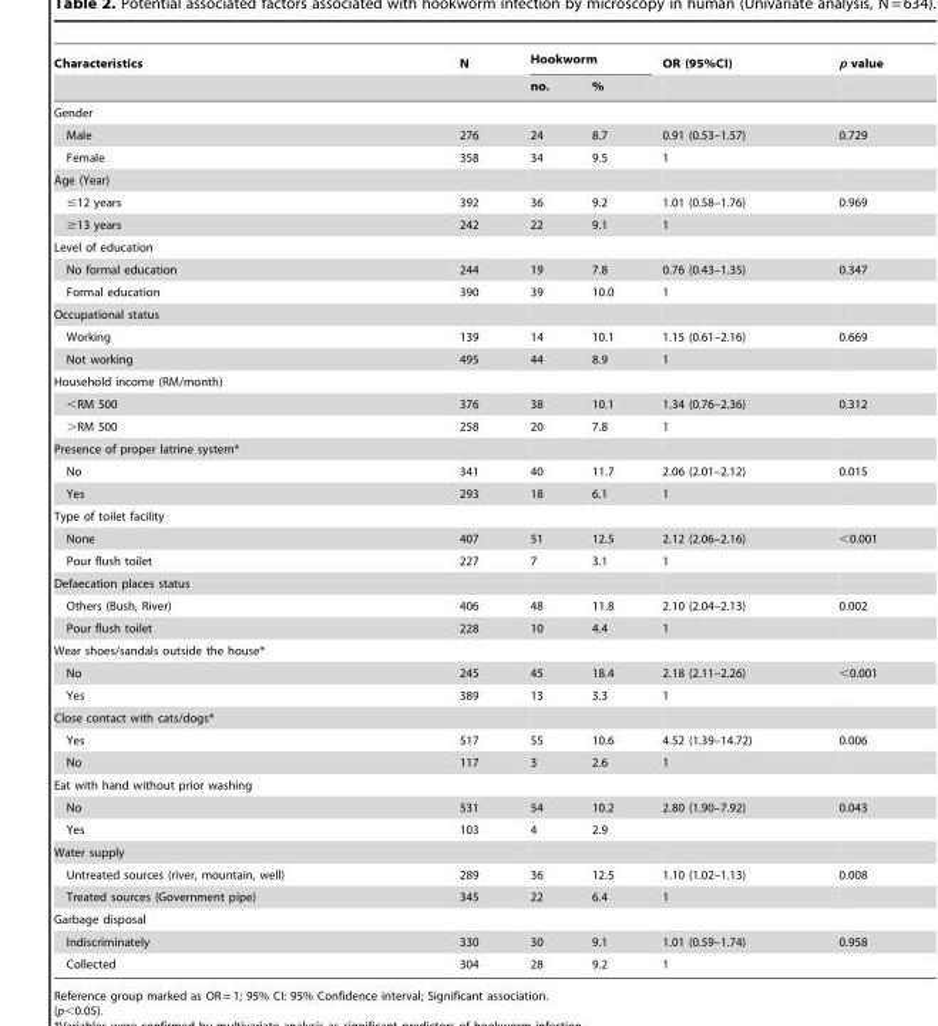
<table><thead><tr><td rowspan="2">Characteristics</td><td rowspan="2">N</td><td colspan="2">Hookworm</td><td rowspan="2">OR (95%CI)</td><td rowspan="2">p value</td></tr><tr><td>no.</td><td>%</td></tr></thead><tbody><tr><td colspan="6">Gender</td></tr><tr><td>Male</td><td>276</td><td>24</td><td>8.7</td><td>0.91 (0.53–1.57)</td><td>0.729</td></tr><tr><td>Female</td><td>358</td><td>34</td><td>9.5</td><td>1</td><td></td></tr><tr><td colspan="6">Age (Year)</td></tr><tr><td>≤12 years</td><td>392</td><td>36</td><td>9.2</td><td>1.01 (0.58–1.76)</td><td>0.969</td></tr><tr><td>≥13 years</td><td>242</td><td>22</td><td>9.1</td><td>1</td><td></td></tr><tr><td colspan="6">Level of education</td></tr><tr><td>No formal education</td><td>244</td><td>19</td><td>7.8</td><td>0.76 (0.43–1.35)</td><td>0.347</td></tr><tr><td>Formal education</td><td>390</td><td>39</td><td>10.0</td><td>1</td><td></td></tr><tr><td colspan="6">Occupational status</td></tr><tr><td>Working</td><td>139</td><td>14</td><td>10.1</td><td>1.15 (0.61–2.16)</td><td>0.669</td></tr><tr><td>Not working</td><td>495</td><td>44</td><td>8.9</td><td>1</td><td></td></tr><tr><td colspan="6">Household income (RM/month)</td></tr><tr><td>&lt;RM 500</td><td>376</td><td>38</td><td>10.1</td><td>1.34 (0.76–2.36)</td><td>0.312</td></tr><tr><td>&gt;RM 500</td><td>258</td><td>20</td><td>7.8</td><td>1</td><td></td></tr><tr><td colspan="6">Presence of proper latrine system*</td></tr><tr><td>No</td><td>341</td><td>40</td><td>11.7</td><td>2.06 (2.01–2.12)</td><td>0.015</td></tr><tr><td>Yes</td><td>293</td><td>18</td><td>6.1</td><td>1</td><td></td></tr><tr><td colspan="6">Type of toilet facility</td></tr><tr><td>None</td><td>407</td><td>51</td><td>12.5</td><td>2.12 (2.06–2.16)</td><td>&lt;0.001</td></tr><tr><td>Pour flush toilet</td><td>227</td><td>7</td><td>3.1</td><td>1</td><td></td></tr><tr><td colspan="6">Defaecation places status</td></tr><tr><td>Others (Bush, River)</td><td>406</td><td>48</td><td>11.8</td><td>2.10 (2.04–2.13)</td><td>0.002</td></tr><tr><td>Pour flush toilet</td><td>228</td><td>10</td><td>4.4</td><td>1</td><td></td></tr><tr><td colspan="6">Wear shoes/sandals outside the house*</td></tr><tr><td>No</td><td>245</td><td>45</td><td>18.4</td><td>2.18 (2.11–2.26)</td><td>&lt;0.001</td></tr><tr><td>Yes</td><td>389</td><td>13</td><td>3.3</td><td>1</td><td></td></tr><tr><td colspan="6">Close contact with cats/dogs*</td></tr><tr><td>Yes</td><td>517</td><td>55</td><td>10.6</td><td>4.52 (1.39–14.72)</td><td>0.006</td></tr><tr><td>No</td><td>117</td><td>3</td><td>2.6</td><td>1</td><td></td></tr><tr><td colspan="6">Eat with hand without prior washing</td></tr><tr><td>No</td><td>531</td><td>54</td><td>10.2</td><td>2.80 (1.90–7.92)</td><td>0.043</td></tr><tr><td>Yes</td><td>103</td><td>4</td><td>2.9</td><td></td><td></td></tr><tr><td colspan="6">Water supply</td></tr><tr><td>Untreated sources (river, mountain, well)</td><td>289</td><td>36</td><td>12.5</td><td>1.10 (1.02–1.13)</td><td>0.008</td></tr><tr><td>Treated sources (Government pipe)</td><td>345</td><td>22</td><td>6.4</td><td>1</td><td></td></tr><tr><td colspan="6">Garbage disposal</td></tr><tr><td>Indiscriminately</td><td>330</td><td>30</td><td>9.1</td><td>1.01 (0.59–1.74)</td><td>0.958</td></tr><tr><td>Collected</td><td>304</td><td>28</td><td>9.2</td><td>1</td><td></td></tr></tbody></table>